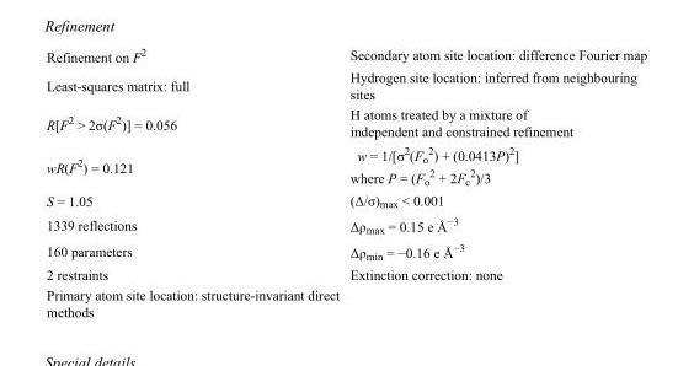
<table><tbody><tr><td>Refinement on F<sup>2</sup></td><td>Secondary atom site location: difference Fourier map</td></tr><tr><td>Least-squares matrix: full</td><td>Hydrogen site location: inferred from neighbouring sites</td></tr><tr><td>R[F<sup>2</sup> &gt; 2σ(F<sup>2</sup>)] = 0.056</td><td>H atoms treated by a mixture of independent and constrained refinement</td></tr><tr><td>wR(F<sup>2</sup>) = 0.121</td><td>w = 1/[σ<sup>2</sup>(F<sub>o</sub> <sup>2</sup>) + (0.0413P)<sup>2</sup>] where P = (F<sub>o</sub> <sup>2</sup> + 2F<sub>c</sub> <sup>2</sup>)/3</td></tr><tr><td>S = 1.05</td><td>(Δ/σ)<sub>max</sub> &lt; 0.001</td></tr><tr><td>1339 reflections</td><td>Δρ<sub>max</sub> = 0.15 e Å<sup>−3</sup></td></tr><tr><td>160 parameters</td><td>Δρ<sub>min</sub> = −0.16 e Å<sup>−3</sup></td></tr><tr><td>2 restraints</td><td>Extinction correction: none</td></tr><tr><td>Primary atom site location: structure-invariant direct methods</td><td></td></tr></tbody></table>